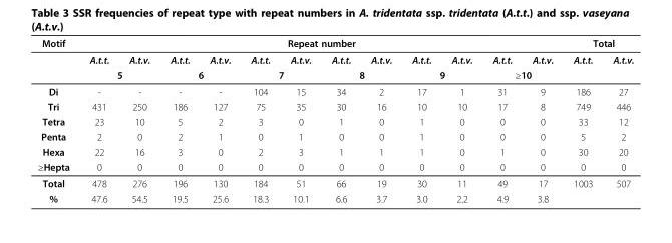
<table><thead><tr><td rowspan="2">Motif</td><td colspan="12">Repeat number</td><td colspan="2">Total</td></tr><tr><td>A.t.t.</td><td>A.t.v.</td><td>A.t.t.</td><td>A.t.v.</td><td>A.t.t.</td><td>A.t.v.</td><td>A.t.t.</td><td>A.t.v.</td><td>A.t.t.</td><td>A.t.v.</td><td>A.t.t.</td><td>A.t.v.</td><td>A.t.t.</td><td>A.t.v.</td></tr></thead><tbody><tr><td></td><td colspan="2">5</td><td colspan="2">6</td><td colspan="2">7</td><td colspan="2">8</td><td colspan="2">9</td><td colspan="2">≥10</td><td></td><td></td></tr><tr><td>Di</td><td>-</td><td>-</td><td>-</td><td>-</td><td>104</td><td>15</td><td>34</td><td>2</td><td>17</td><td>1</td><td>31</td><td>9</td><td>186</td><td>27</td></tr><tr><td>Tri</td><td>431</td><td>250</td><td>186</td><td>127</td><td>75</td><td>35</td><td>30</td><td>16</td><td>10</td><td>10</td><td>17</td><td>8</td><td>749</td><td>446</td></tr><tr><td>Tetra</td><td>23</td><td>10</td><td>5</td><td>2</td><td>3</td><td>0</td><td>1</td><td>0</td><td>1</td><td>0</td><td>0</td><td>0</td><td>33</td><td>12</td></tr><tr><td>Penta</td><td>2</td><td>0</td><td>2</td><td>1</td><td>0</td><td>1</td><td>0</td><td>0</td><td>1</td><td>0</td><td>0</td><td>0</td><td>5</td><td>2</td></tr><tr><td>Hexa</td><td>22</td><td>16</td><td>3</td><td>0</td><td>2</td><td>3</td><td>1</td><td>1</td><td>1</td><td>0</td><td>1</td><td>0</td><td>30</td><td>20</td></tr><tr><td>≥Hepta</td><td>0</td><td>0</td><td>0</td><td>0</td><td>0</td><td>0</td><td>0</td><td>0</td><td>0</td><td>0</td><td>0</td><td>0</td><td>0</td><td>0</td></tr><tr><td>Total</td><td>478</td><td>276</td><td>196</td><td>130</td><td>184</td><td>51</td><td>66</td><td>19</td><td>30</td><td>11</td><td>49</td><td>17</td><td>1003</td><td>507</td></tr><tr><td>%</td><td>47.6</td><td>54.5</td><td>19.5</td><td>25.6</td><td>18.3</td><td>10.1</td><td>6.6</td><td>3.7</td><td>3.0</td><td>2.2</td><td>4.9</td><td>3.8</td><td></td><td></td></tr></tbody></table>